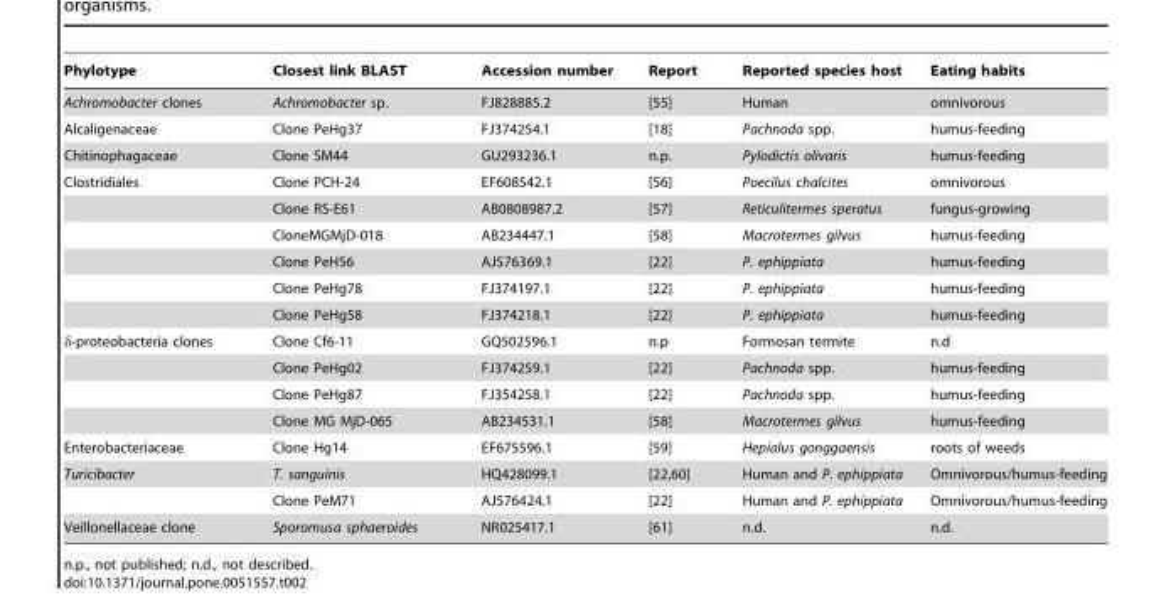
<table><thead><tr><td>Phylotype</td><td>Closest link BLAST</td><td>Accession number</td><td>Report</td><td>Reported species host</td><td>Eating habits</td></tr></thead><tbody><tr><td>Achromobacter clones</td><td>Achromobacter sp.</td><td>FJ828885.2</td><td>[55]</td><td>Human</td><td>omnivorous</td></tr><tr><td>Alcaligenaceae</td><td>Clone PeHg37</td><td>FJ374254.1</td><td>[18]</td><td>Pachnoda spp.</td><td>humus-feeding</td></tr><tr><td>Chitinophagaceae</td><td>Clone SM44</td><td>GU293236.1</td><td>n.p.</td><td>Pylodictis olivaris</td><td>humus-feeding</td></tr><tr><td rowspan="6">Clostridiales</td><td>Clone PCH-24</td><td>EF608542.1</td><td>[56]</td><td>Poecilus chalcites</td><td>omnivorous</td></tr><tr><td>Clone RS-E61</td><td>AB0808987.2</td><td>[57]</td><td>Reticulitermes speratus</td><td>fungus-growing</td></tr><tr><td>CloneMGMjD-018</td><td>AB234447.1</td><td>[58]</td><td>Macrotermes gilvus</td><td>humus-feeding</td></tr><tr><td>Clone PeH56</td><td>AJ576369.1</td><td>[22]</td><td>P. ephippiata</td><td>humus-feeding</td></tr><tr><td>Clone PeHg78</td><td>FJ374197.1</td><td>[22]</td><td>P. ephippiata</td><td>humus-feeding</td></tr><tr><td>Clone PeHg58</td><td>FJ374218.1</td><td>[22]</td><td>P. ephippiata</td><td>humus-feeding</td></tr><tr><td rowspan="4">δ-proteobacteria clones</td><td>Clone Cf6-11</td><td>GQ502596.1</td><td>n.p</td><td>Formosan termite</td><td>n.d</td></tr><tr><td>Clone PeHg02</td><td>FJ374259.1</td><td>[22]</td><td>Pachnoda spp.</td><td>humus-feeding</td></tr><tr><td>Clone PeHg87</td><td>FJ354258.1</td><td>[22]</td><td>Pachnoda spp.</td><td>humus-feeding</td></tr><tr><td>Clone MG MjD-065</td><td>AB234531.1</td><td>[58]</td><td>Macrotermes gilvus</td><td>humus-feeding</td></tr><tr><td>Enterobacteriaceae</td><td>Clone Hg14</td><td>EF675596.1</td><td>[59]</td><td>Hepialus gonggaensis</td><td>roots of weeds</td></tr><tr><td rowspan="2">Turicibacter</td><td>T. sanguinis</td><td>HQ428099.1</td><td>[22,60]</td><td>Human and P. ephippiata</td><td>Omnivorous/humus-feeding</td></tr><tr><td>Clone PeM71</td><td>AJ576424.1</td><td>[22]</td><td>Human and P. ephippiata</td><td>Omnivorous/humus-feeding</td></tr><tr><td>Veillonellaceae clone</td><td>Sporomusa sphaeroides</td><td>NR025417.1</td><td>[61]</td><td>n.d.</td><td>n.d.</td></tr></tbody></table>